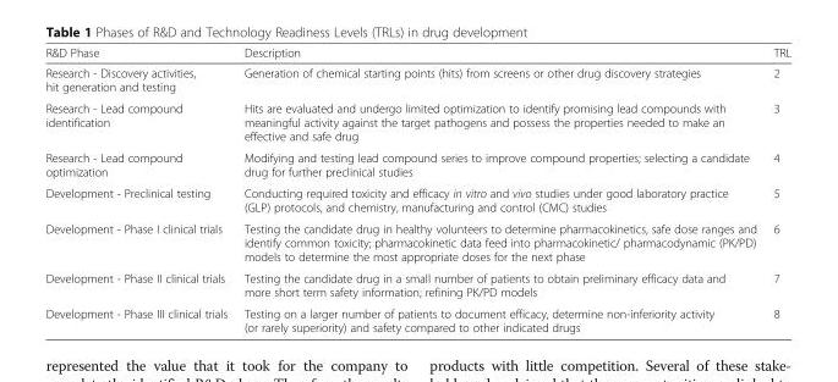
<table><thead><tr><td>R&amp;D Phase</td><td>Description</td><td>TRL</td></tr></thead><tbody><tr><td>Research - Discovery activities, hit generation and testing</td><td>Generation of chemical starting points (hits) from screens or other drug discovery strategies</td><td>2</td></tr><tr><td>Research - Lead compound identification</td><td>Hits are evaluated and undergo limited optimization to identify promising lead compounds with meaningful activity against the target pathogens and possess the properties needed to make an effective and safe drug</td><td>3</td></tr><tr><td>Research - Lead compound optimization</td><td>Modifying and testing lead compound series to improve compound properties; selecting a candidate drug for further preclinical studies</td><td>4</td></tr><tr><td>Development - Preclinical testing</td><td>Conducting required toxicity and efficacy in vitro and vivo studies under good laboratory practice (GLP) protocols, and chemistry, manufacturing and control (CMC) studies</td><td>5</td></tr><tr><td>Development - Phase I clinical trials</td><td>Testing the candidate drug in healthy volunteers to determine pharmacokinetics, safe dose ranges and identify common toxicity; pharmacokinetic data feed into pharmacokinetic/ pharmacodynamic (PK/PD) models to determine the most appropriate doses for the next phase</td><td>6</td></tr><tr><td>Development - Phase II clinical trials</td><td>Testing the candidate drug in a small number of patients to obtain preliminary efficacy data and more short term safety information; refining PK/PD models</td><td>7</td></tr><tr><td>Development - Phase III clinical trials</td><td>Testing on a larger number of patients to document efficacy, determine non-inferiority activity (or rarely superiority) and safety compared to other indicated drugs</td><td>8</td></tr></tbody></table>